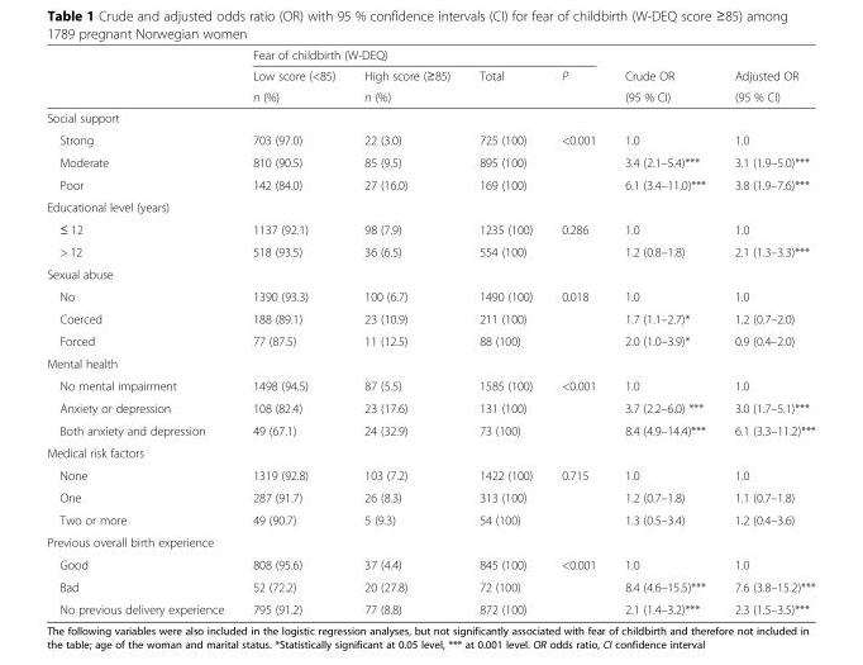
<table><thead><tr><td rowspan="3"></td><td colspan="4">Fear of childbirth (W-DEQ)</td><td rowspan="3">Crude OR (95 % CI)</td><td rowspan="3">Adjusted OR (95 % CI)</td></tr><tr><td rowspan="2">Low score (&lt;85) n (%)</td><td rowspan="2">High score (≥85) n (%)</td><td rowspan="2">Total</td><td rowspan="2">P</td></tr><tr></tr></thead><tbody><tr><td colspan="7">Social support</td></tr><tr><td>Strong</td><td>703 (97.0)</td><td>22 (3.0)</td><td>725 (100)</td><td>&lt;0.001</td><td>1.0</td><td>1.0</td></tr><tr><td>Moderate</td><td>810 (90.5)</td><td>85 (9.5)</td><td>895 (100)</td><td></td><td>3.4 (2.1–5.4)***</td><td>3.1 (1.9–5.0)***</td></tr><tr><td>Poor</td><td>142 (84.0)</td><td>27 (16.0)</td><td>169 (100)</td><td></td><td>6.1 (3.4–11.0)***</td><td>3.8 (1.9–7.6)***</td></tr><tr><td colspan="7">Educational level (years)</td></tr><tr><td>≤ 12</td><td>1137 (92.1)</td><td>98 (7.9)</td><td>1235 (100)</td><td>0.286</td><td>1.0</td><td>1.0</td></tr><tr><td>&gt; 12</td><td>518 (93.5)</td><td>36 (6.5)</td><td>554 (100)</td><td></td><td>1.2 (0.8–1.8)</td><td>2.1 (1.3–3.3)***</td></tr><tr><td colspan="7">Sexual abuse</td></tr><tr><td>No</td><td>1390 (93.3)</td><td>100 (6.7)</td><td>1490 (100)</td><td>0.018</td><td>1.0</td><td>1.0</td></tr><tr><td>Coerced</td><td>188 (89.1)</td><td>23 (10.9)</td><td>211 (100)</td><td></td><td>1.7 (1.1–2.7)*</td><td>1.2 (0.7–2.0)</td></tr><tr><td>Forced</td><td>77 (87.5)</td><td>11 (12.5)</td><td>88 (100)</td><td></td><td>2.0 (1.0–3.9)*</td><td>0.9 (0.4–2.0)</td></tr><tr><td colspan="7">Mental health</td></tr><tr><td>No mental impairment</td><td>1498 (94.5)</td><td>87 (5.5)</td><td>1585 (100)</td><td>&lt;0.001</td><td>1.0</td><td>1.0</td></tr><tr><td>Anxiety or depression</td><td>108 (82.4)</td><td>23 (17.6)</td><td>131 (100)</td><td></td><td>3.7 (2.2–6.0) ***</td><td>3.0 (1.7–5.1)***</td></tr><tr><td>Both anxiety and depression</td><td>49 (67.1)</td><td>24 (32.9)</td><td>73 (100)</td><td></td><td>8.4 (4.9–14.4)***</td><td>6.1 (3.3–11.2)***</td></tr><tr><td colspan="7">Medical risk factors</td></tr><tr><td>None</td><td>1319 (92.8)</td><td>103 (7.2)</td><td>1422 (100)</td><td>0.715</td><td>1.0</td><td>1.0</td></tr><tr><td>One</td><td>287 (91.7)</td><td>26 (8.3)</td><td>313 (100)</td><td></td><td>1.2 (0.7–1.8)</td><td>1.1 (0.7–1.8)</td></tr><tr><td>Two or more</td><td>49 (90.7)</td><td>5 (9.3)</td><td>54 (100)</td><td></td><td>1.3 (0.5–3.4)</td><td>1.2 (0.4–3.6)</td></tr><tr><td colspan="7">Previous overall birth experience</td></tr><tr><td>Good</td><td>808 (95.6)</td><td>37 (4.4)</td><td>845 (100)</td><td>&lt;0.001</td><td>1.0</td><td>1.0</td></tr><tr><td>Bad</td><td>52 (72.2)</td><td>20 (27.8)</td><td>72 (100)</td><td></td><td>8.4 (4.6–15.5)***</td><td>7.6 (3.8–15.2)***</td></tr><tr><td>No previous delivery experience</td><td>795 (91.2)</td><td>77 (8.8)</td><td>872 (100)</td><td></td><td>2.1 (1.4–3.2)***</td><td>2.3 (1.5–3.5)***</td></tr></tbody></table>